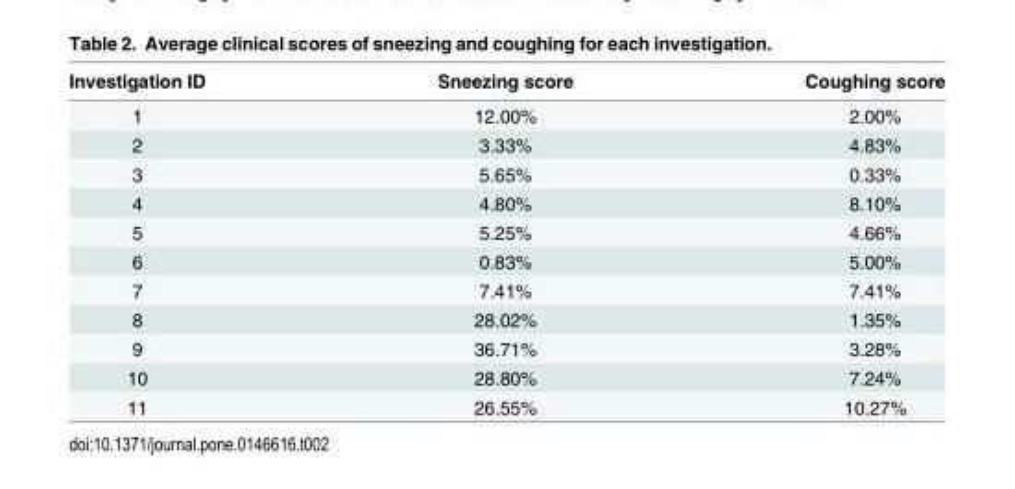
<table><thead><tr><td>Investigation ID</td><td>Sneezing score</td><td>Coughing score</td></tr></thead><tbody><tr><td>1</td><td>12.00%</td><td>2.00%</td></tr><tr><td>2</td><td>3.33%</td><td>4.83%</td></tr><tr><td>3</td><td>5.65%</td><td>0.33%</td></tr><tr><td>4</td><td>4.80%</td><td>8.10%</td></tr><tr><td>5</td><td>5.25%</td><td>4.66%</td></tr><tr><td>6</td><td>0.83%</td><td>5.00%</td></tr><tr><td>7</td><td>7.41%</td><td>7.41%</td></tr><tr><td>8</td><td>28.02%</td><td>1.35%</td></tr><tr><td>9</td><td>36.71%</td><td>3.28%</td></tr><tr><td>10</td><td>28.80%</td><td>7.24%</td></tr><tr><td>11</td><td>26.55%</td><td>10.27%</td></tr></tbody></table>